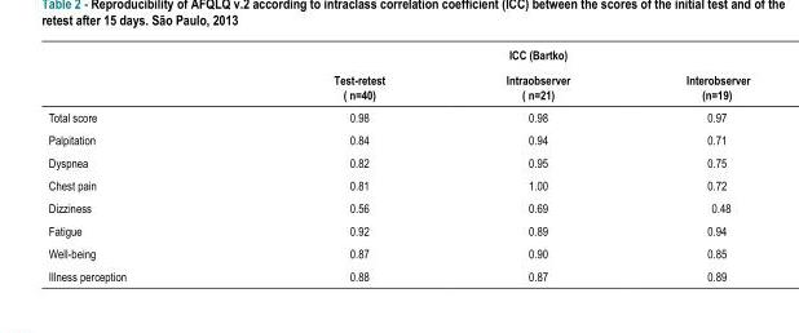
<table><thead><tr><td rowspan="2"></td><td rowspan="2">Test-retest ( n=40)</td><td rowspan="2">ICC (Bartko) Intraobserver ( n=21)</td><td rowspan="2">Interobserver (n=19)</td></tr><tr></tr></thead><tbody><tr><td>Total score</td><td>0.98</td><td>0.98</td><td>0.97</td></tr><tr><td>Palpitation</td><td>0.84</td><td>0.94</td><td>0.71</td></tr><tr><td>Dyspnea</td><td>0.82</td><td>0.95</td><td>0.75</td></tr><tr><td>Chest pain</td><td>0.81</td><td>1.00</td><td>0.72</td></tr><tr><td>Dizziness</td><td>0.56</td><td>0.69</td><td>0.48</td></tr><tr><td>Fatigue</td><td>0.92</td><td>0.89</td><td>0.94</td></tr><tr><td>Well-being</td><td>0.87</td><td>0.90</td><td>0.85</td></tr><tr><td>Illness perception</td><td>0.88</td><td>0.87</td><td>0.89</td></tr></tbody></table>